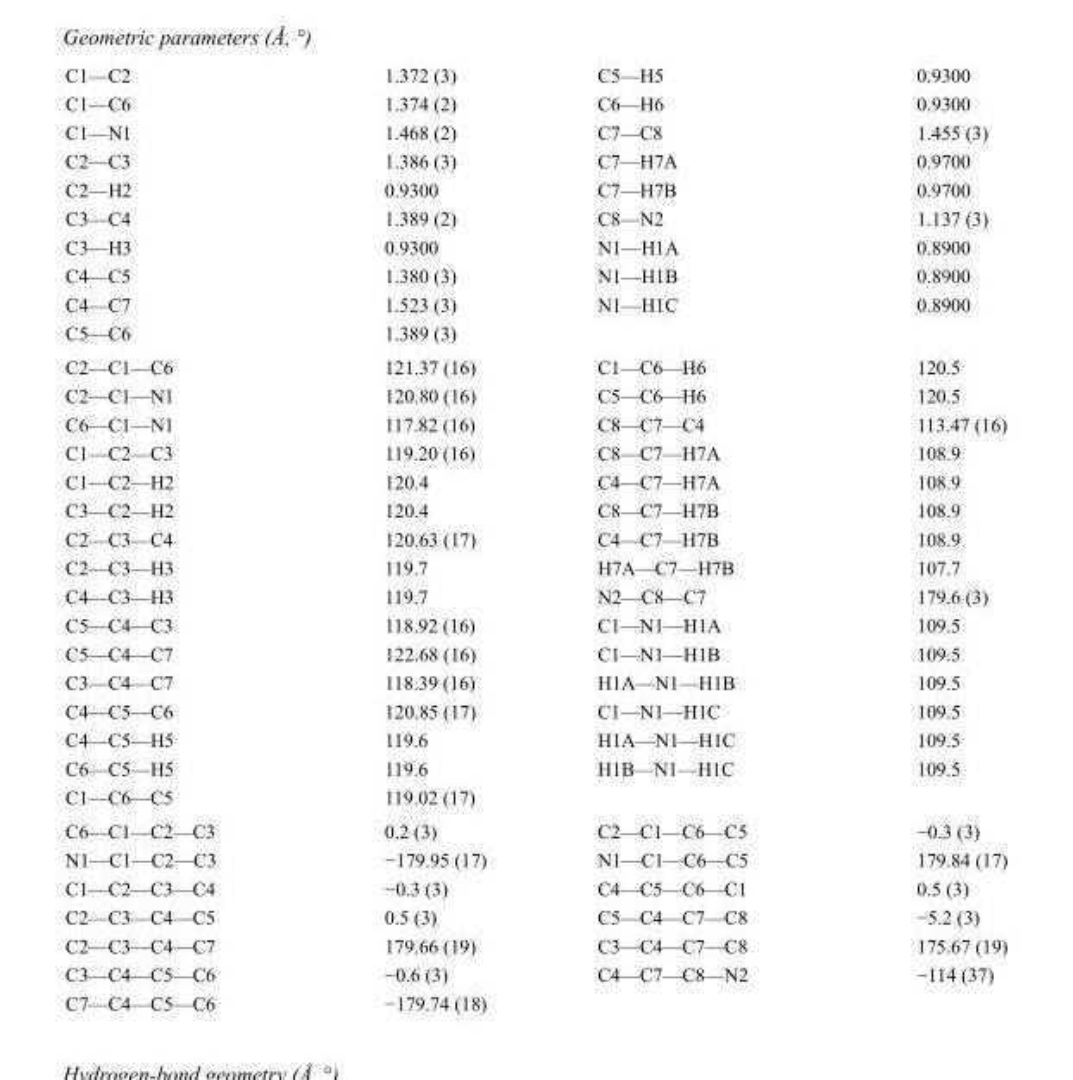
<table><tbody><tr><td>C1—C2</td><td>1.372 (3)</td><td>C5—H5</td><td>0.9300</td></tr><tr><td>C1—C6</td><td>1.374 (2)</td><td>C6—H6</td><td>0.9300</td></tr><tr><td>C1—N1</td><td>1.468 (2)</td><td>C7—C8</td><td>1.455 (3)</td></tr><tr><td>C2—C3</td><td>1.386 (3)</td><td>C7—H7A</td><td>0.9700</td></tr><tr><td>C2—H2</td><td>0.9300</td><td>C7—H7B</td><td>0.9700</td></tr><tr><td>C3—C4</td><td>1.389 (2)</td><td>C8—N2</td><td>1.137 (3)</td></tr><tr><td>C3—H3</td><td>0.9300</td><td>N1—H1A</td><td>0.8900</td></tr><tr><td>C4—C5</td><td>1.380 (3)</td><td>N1—H1B</td><td>0.8900</td></tr><tr><td>C4—C7</td><td>1.523 (3)</td><td>N1—H1C</td><td>0.8900</td></tr><tr><td>C5—C6</td><td>1.389 (3)</td><td></td><td></td></tr><tr><td>C2—C1—C6</td><td>121.37 (16)</td><td>C1—C6—H6</td><td>120.5</td></tr><tr><td>C2—C1—N1</td><td>120.80 (16)</td><td>C5—C6—H6</td><td>120.5</td></tr><tr><td>C6—C1—N1</td><td>117.82 (16)</td><td>C8—C7—C4</td><td>113.47 (16)</td></tr><tr><td>C1—C2—C3</td><td>119.20 (16)</td><td>C8—C7—H7A</td><td>108.9</td></tr><tr><td>C1—C2—H2</td><td>120.4</td><td>C4—C7—H7A</td><td>108.9</td></tr><tr><td>C3—C2—H2</td><td>120.4</td><td>C8—C7—H7B</td><td>108.9</td></tr><tr><td>C2—C3—C4</td><td>120.63 (17)</td><td>C4—C7—H7B</td><td>108.9</td></tr><tr><td>C2—C3—H3</td><td>119.7</td><td>H7A—C7—H7B</td><td>107.7</td></tr><tr><td>C4—C3—H3</td><td>119.7</td><td>N2—C8—C7</td><td>179.6 (3)</td></tr><tr><td>C5—C4—C3</td><td>118.92 (16)</td><td>C1—N1—H1A</td><td>109.5</td></tr><tr><td>C5—C4—C7</td><td>122.68 (16)</td><td>C1—N1—H1B</td><td>109.5</td></tr><tr><td>C3—C4—C7</td><td>118.39 (16)</td><td>H1A—N1—H1B</td><td>109.5</td></tr><tr><td>C4—C5—C6</td><td>120.85 (17)</td><td>C1—N1—H1C</td><td>109.5</td></tr><tr><td>C4—C5—H5</td><td>119.6</td><td>H1A—N1—H1C</td><td>109.5</td></tr><tr><td>C6—C5—H5</td><td>119.6</td><td>H1B—N1—H1C</td><td>109.5</td></tr><tr><td>C1—C6—C5</td><td>119.02 (17)</td><td></td><td></td></tr><tr><td>C6—C1—C2—C3</td><td>0.2 (3)</td><td>C2—C1—C6—C5</td><td>−0.3 (3)</td></tr><tr><td>N1—C1—C2—C3</td><td>−179.95 (17)</td><td>N1—C1—C6—C5</td><td>179.84 (17)</td></tr><tr><td>C1—C2—C3—C4</td><td>−0.3 (3)</td><td>C4—C5—C6—C1</td><td>0.5 (3)</td></tr><tr><td>C2—C3—C4—C5</td><td>0.5 (3)</td><td>C5—C4—C7—C8</td><td>−5.2 (3)</td></tr><tr><td>C2—C3—C4—C7</td><td>179.66 (19)</td><td>C3—C4—C7—C8</td><td>175.67 (19)</td></tr><tr><td>C3—C4—C5—C6</td><td>−0.6 (3)</td><td>C4—C7—C8—N2</td><td>−114 (37)</td></tr><tr><td>C7—C4—C5—C6</td><td>−179.74 (18)</td><td></td><td></td></tr></tbody></table>